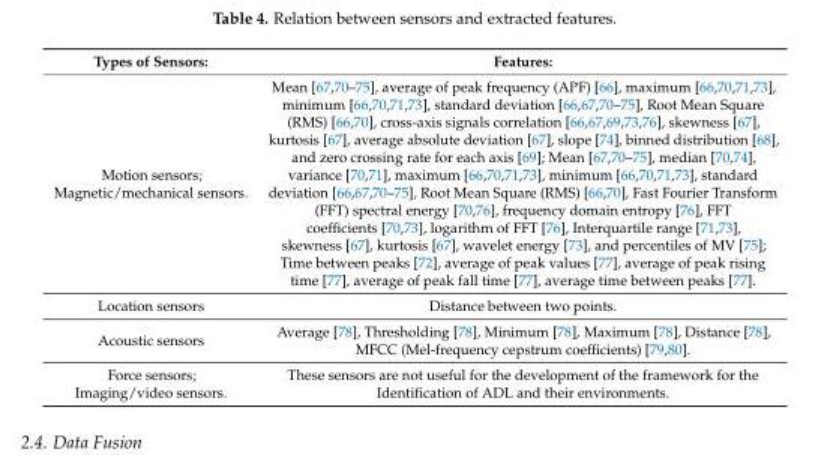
<table><thead><tr><td>Types of Sensors:</td><td>Features:</td></tr></thead><tbody><tr><td>Motion sensors; Magnetic/mechanical sensors.</td><td>Mean [67,70–75], average of peak frequency (APF) [66], maximum [66,70,71,73], minimum [66,70,71,73], standard deviation [66,67,70–75], Root Mean Square (RMS) [66,70], cross-axis signals correlation [66,67,69,73,76], skewness [67], kurtosis [67], average absolute deviation [67], slope [74], binned distribution [68], and zero crossing rate for each axis [69]; Mean [67,70–75], median [70,74], variance [70,71], maximum [66,70,71,73], minimum [66,70,71,73], standard deviation [66,67,70–75], Root Mean Square (RMS) [66,70], Fast Fourier Transform (FFT) spectral energy [70,76], frequency domain entropy [76], FFT coefficients [70,73], logarithm of FFT [76], Interquartile range [71,73], skewness [67], kurtosis [67], wavelet energy [73], and percentiles of MV [75]; Time between peaks [72], average of peak values [77], average of peak rising time [77], average of peak fall time [77], average time between peaks [77].</td></tr><tr><td>Location sensors</td><td>Distance between two points.</td></tr><tr><td>Acoustic sensors</td><td>Average [78], Thresholding [78], Minimum [78], Maximum [78], Distance [78], MFCC (Mel-frequency cepstrum coefficients) [79,80].</td></tr><tr><td>Force sensors; Imaging/video sensors.</td><td>These sensors are not useful for the development of the framework for the Identification of ADL and their environments.</td></tr></tbody></table>